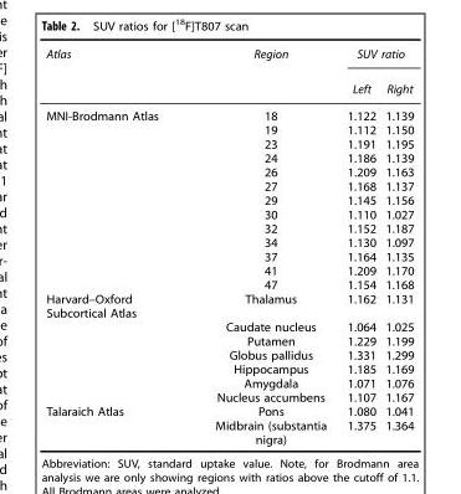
<table><thead><tr><td rowspan="2">Atlas</td><td rowspan="2">Region</td><td colspan="2">SUV ratio</td></tr><tr><td>Left</td><td>Right</td></tr></thead><tbody><tr><td rowspan="13">MNI-Brodmann Atlas</td><td>18</td><td>1.122</td><td>1.139</td></tr><tr><td>19</td><td>1.112</td><td>1.150</td></tr><tr><td>23</td><td>1.191</td><td>1.195</td></tr><tr><td>24</td><td>1.186</td><td>1.139</td></tr><tr><td>26</td><td>1.209</td><td>1.163</td></tr><tr><td>27</td><td>1.168</td><td>1.137</td></tr><tr><td>29</td><td>1.145</td><td>1.156</td></tr><tr><td>30</td><td>1.110</td><td>1.027</td></tr><tr><td>32</td><td>1.152</td><td>1.187</td></tr><tr><td>34</td><td>1.130</td><td>1.097</td></tr><tr><td>37</td><td>1.164</td><td>1.135</td></tr><tr><td>41</td><td>1.209</td><td>1.170</td></tr><tr><td>47</td><td>1.154</td><td>1.168</td></tr><tr><td rowspan="7">Harvard–Oxford Subcortical Atlas</td><td>Thalamus</td><td>1.162</td><td>1.131</td></tr><tr><td>Caudate nucleus</td><td>1.064</td><td>1.025</td></tr><tr><td>Putamen</td><td>1.229</td><td>1.199</td></tr><tr><td>Globus pallidus</td><td>1.331</td><td>1.299</td></tr><tr><td>Hippocampus</td><td>1.185</td><td>1.169</td></tr><tr><td>Amygdala</td><td>1.071</td><td>1.076</td></tr><tr><td>Nucleus accumbens</td><td>1.107</td><td>1.167</td></tr><tr><td rowspan="2">Talaraich Atlas</td><td>Pons</td><td>1.080</td><td>1.041</td></tr><tr><td>Midbrain (substantia nigra)</td><td>1.375</td><td>1.364</td></tr></tbody></table>